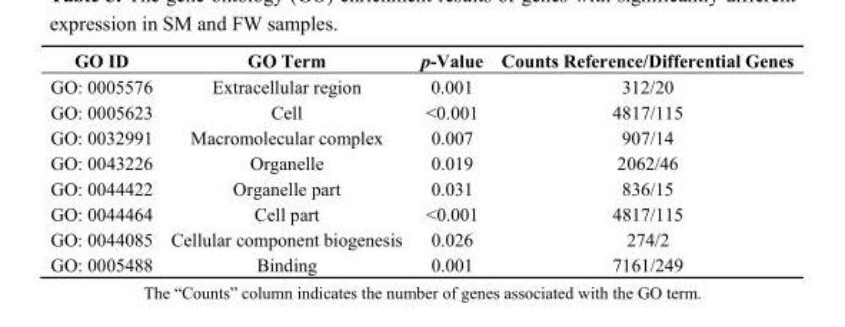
<table><thead><tr><td>GO ID</td><td>GO Term</td><td>p-Value</td><td>Counts Reference/Differential Genes</td></tr></thead><tbody><tr><td>GO: 0005576</td><td>Extracellular region</td><td>0.001</td><td>312/20</td></tr><tr><td>GO: 0005623</td><td>Cell</td><td>&lt;0.001</td><td>4817/115</td></tr><tr><td>GO: 0032991</td><td>Macromolecular complex</td><td>0.007</td><td>907/14</td></tr><tr><td>GO: 0043226</td><td>Organelle</td><td>0.019</td><td>2062/46</td></tr><tr><td>GO: 0044422</td><td>Organelle part</td><td>0.031</td><td>836/15</td></tr><tr><td>GO: 0044464</td><td>Cell part</td><td>&lt;0.001</td><td>4817/115</td></tr><tr><td>GO: 0044085</td><td>Cellular component biogenesis</td><td>0.026</td><td>274/2</td></tr><tr><td>GO: 0005488</td><td>Binding</td><td>0.001</td><td>7161/249</td></tr></tbody></table>